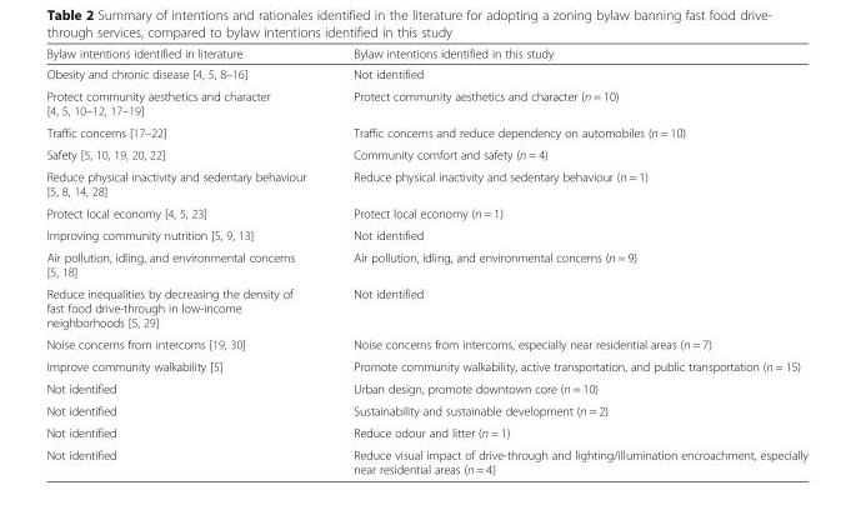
<table><thead><tr><td>Bylaw intentions identified in literature</td><td>Bylaw intentions identified in this study</td></tr></thead><tbody><tr><td>Obesity and chronic disease [4, 5, 8–16]</td><td>Not identified</td></tr><tr><td>Protect community aesthetics and character [4, 5, 10–12, 17–19]</td><td>Protect community aesthetics and character (n = 10)</td></tr><tr><td>Traffic concerns [17–22]</td><td>Traffic concerns and reduce dependency on automobiles (n = 10)</td></tr><tr><td>Safety [5, 10, 19, 20, 22]</td><td>Community comfort and safety (n = 4)</td></tr><tr><td>Reduce physical inactivity and sedentary behaviour [5, 8, 14, 28]</td><td>Reduce physical inactivity and sedentary behaviour (n = 1)</td></tr><tr><td>Protect local economy [4, 5, 23]</td><td>Protect local economy (n = 1)</td></tr><tr><td>Improving community nutrition [5, 9, 13]</td><td>Not identified</td></tr><tr><td>Air pollution, idling, and environmental concerns [5, 18]</td><td>Air pollution, idling, and environmental concerns (n = 9)</td></tr><tr><td>Reduce inequalities by decreasing the density of fast food drive-through in low-income neighborhoods [5, 29]</td><td>Not identified</td></tr><tr><td>Noise concerns from intercoms [19, 30]</td><td>Noise concerns from intercoms, especially near residential areas (n = 7)</td></tr><tr><td>Improve community walkability [5]</td><td>Promote community walkability, active transportation, and public transportation (n = 15)</td></tr><tr><td>Not identified</td><td>Urban design, promote downtown core (n = 10)</td></tr><tr><td>Not identified</td><td>Sustainability and sustainable development (n = 2)</td></tr><tr><td>Not identified</td><td>Reduce odour and litter (n = 1)</td></tr><tr><td>Not identified</td><td>Reduce visual impact of drive-through and lighting/illumination encroachment, especially near residential areas (n = 4)</td></tr></tbody></table>